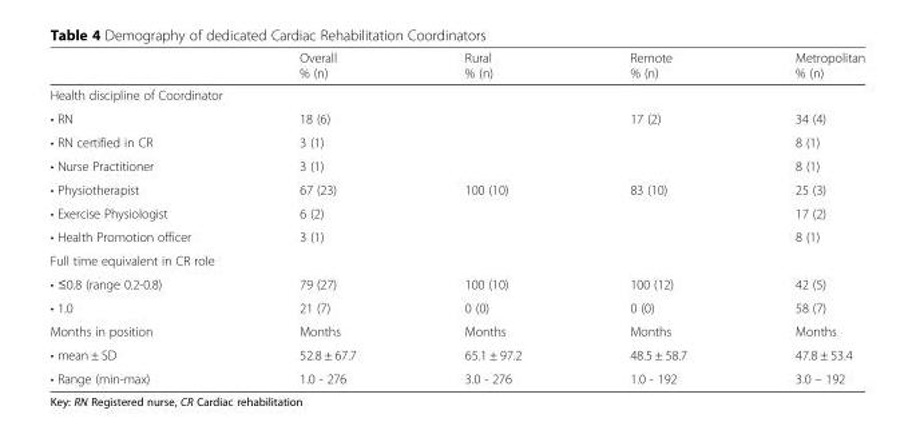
<table><thead><tr><td></td><td>Overall % (n)</td><td>Rural % (n)</td><td>Remote % (n)</td><td>Metropolitan % (n)</td></tr></thead><tbody><tr><td colspan="5">Health discipline of Coordinator</td></tr><tr><td>• RN</td><td>18 (6)</td><td></td><td>17 (2)</td><td>34 (4)</td></tr><tr><td>• RN certified in CR</td><td>3 (1)</td><td></td><td></td><td>8 (1)</td></tr><tr><td>• Nurse Practitioner</td><td>3 (1)</td><td></td><td></td><td>8 (1)</td></tr><tr><td>• Physiotherapist</td><td>67 (23)</td><td>100 (10)</td><td>83 (10)</td><td>25 (3)</td></tr><tr><td>• Exercise Physiologist</td><td>6 (2)</td><td></td><td></td><td>17 (2)</td></tr><tr><td>• Health Promotion officer</td><td>3 (1)</td><td></td><td></td><td>8 (1)</td></tr><tr><td colspan="5">Full time equivalent in CR role</td></tr><tr><td>• ≤0.8 (range 0.2-0.8)</td><td>79 (27)</td><td>100 (10)</td><td>100 (12)</td><td>42 (5)</td></tr><tr><td>• 1.0</td><td>21 (7)</td><td>0 (0)</td><td>0 (0)</td><td>58 (7)</td></tr><tr><td>Months in position</td><td>Months</td><td>Months</td><td>Months</td><td>Months</td></tr><tr><td>• mean ± SD</td><td>52.8 ± 67.7</td><td>65.1 ± 97.2</td><td>48.5 ± 58.7</td><td>47.8 ± 53.4</td></tr><tr><td>• Range (min-max)</td><td>1.0 - 276</td><td>3.0 - 276</td><td>1.0 - 192</td><td>3.0 – 192</td></tr></tbody></table>